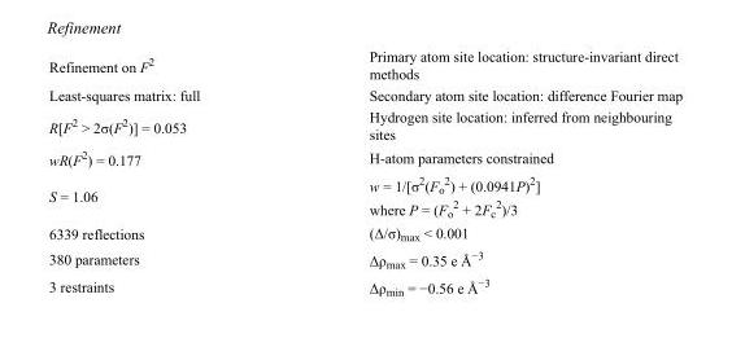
<table><tbody><tr><td>Refinement on F<sup>2</sup></td><td>Primary atom site location: structure-invariant direct methods</td></tr><tr><td>Least-squares matrix: full</td><td>Secondary atom site location: difference Fourier map</td></tr><tr><td>R[F<sup>2</sup> &gt; 2σ(F<sup>2</sup>)] = 0.053</td><td>Hydrogen site location: inferred from neighbouring sites</td></tr><tr><td>wR(F<sup>2</sup>) = 0.177</td><td>H-atom parameters constrained</td></tr><tr><td>S = 1.06</td><td>w = 1/[σ<sup>2</sup>(F<sub>o</sub> <sup>2</sup>) + (0.0941P)<sup>2</sup>] where P = (F<sub>o</sub> <sup>2</sup> + 2F<sub>c</sub> <sup>2</sup>)/3</td></tr><tr><td>6339 reflections</td><td>(Δ/σ)<sub>max</sub> &lt; 0.001</td></tr><tr><td>380 parameters</td><td>Δρ<sub>max</sub> = 0.35 e Å<sup>−3</sup></td></tr><tr><td>3 restraints</td><td>Δρ<sub>min</sub> = −0.56 e Å<sup>−3</sup></td></tr></tbody></table>